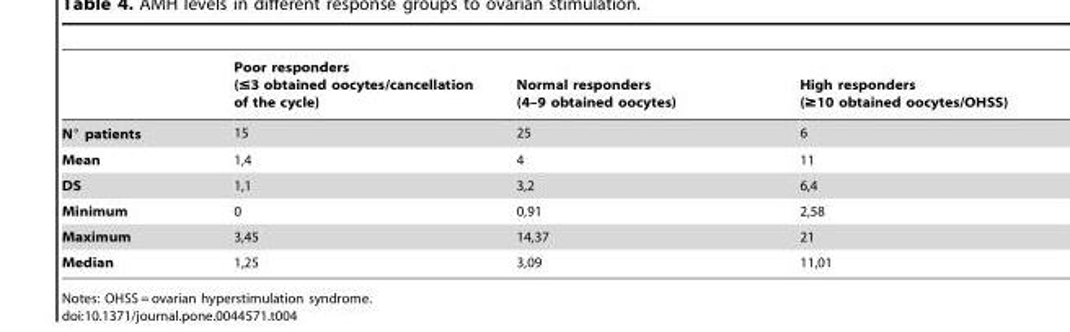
<table><thead><tr><td></td><td>Poor responders (≤3 obtained oocytes/cancellation of the cycle)</td><td>Normal responders (4–9 obtained oocytes)</td><td>High responders (≥10 obtained oocytes/OHSS)</td></tr></thead><tbody><tr><td>N° patients</td><td>15</td><td>25</td><td>6</td></tr><tr><td>Mean</td><td>1,4</td><td>4</td><td>11</td></tr><tr><td>DS</td><td>1,1</td><td>3,2</td><td>6,4</td></tr><tr><td>Minimum</td><td>0</td><td>0,91</td><td>2,58</td></tr><tr><td>Maximum</td><td>3,45</td><td>14,37</td><td>21</td></tr><tr><td>Median</td><td>1,25</td><td>3,09</td><td>11,01</td></tr></tbody></table>